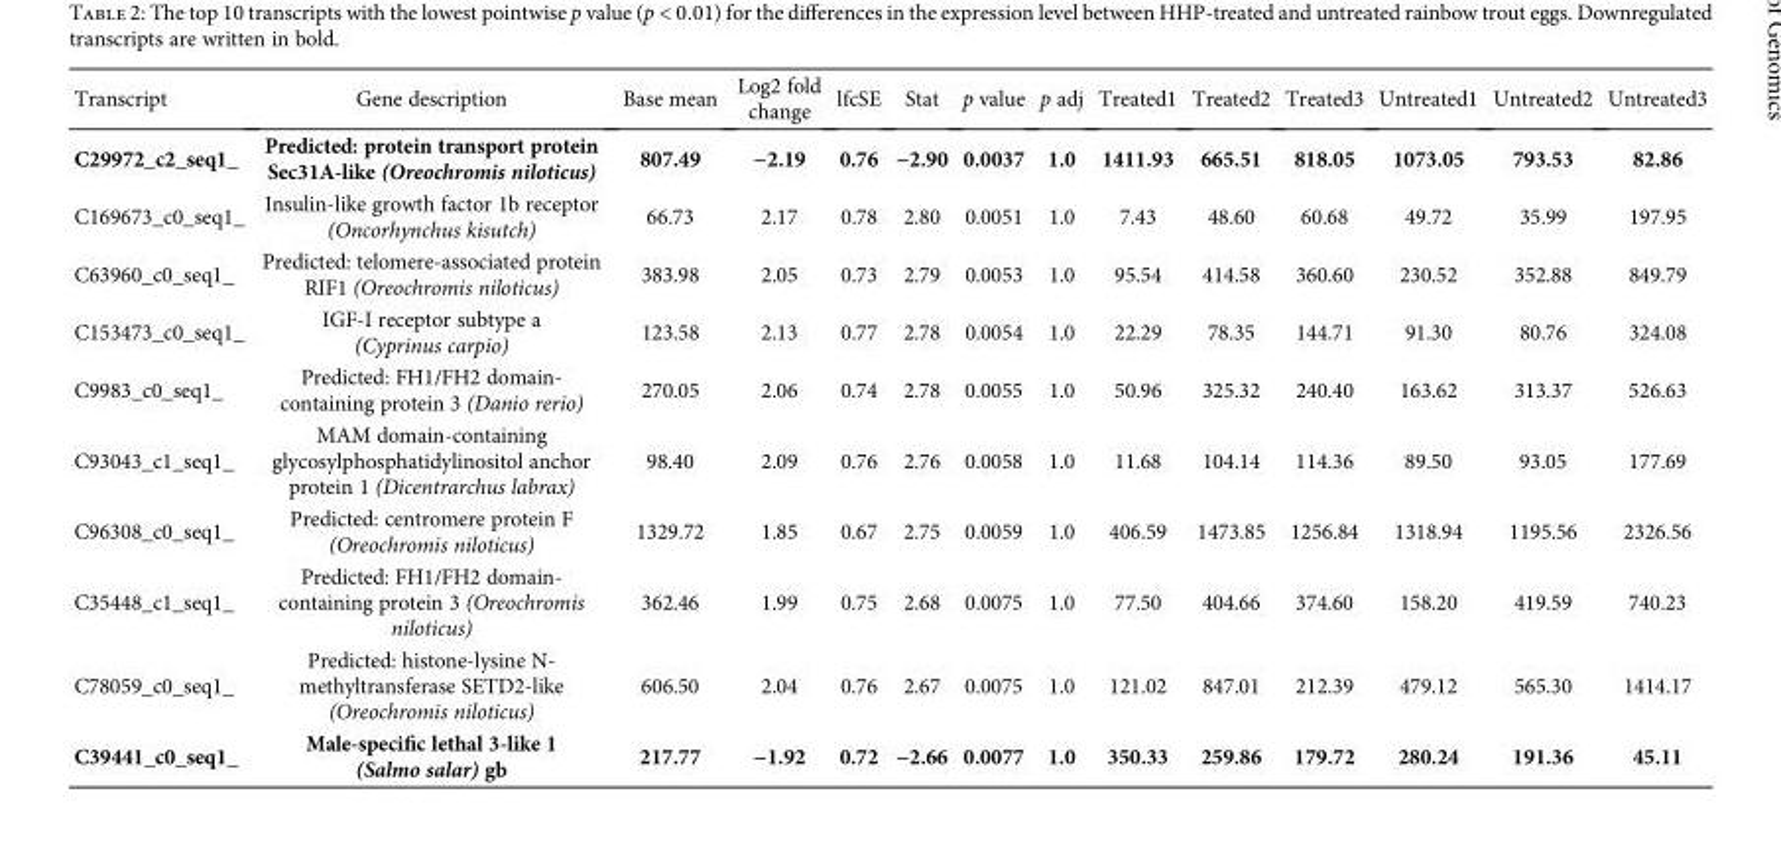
<table><thead><tr><td>Transcript</td><td>Gene description</td><td>Base mean</td><td>Log2 fold change</td><td>lfcSE</td><td>Stat</td><td>p value</td><td>p adj</td><td>Treated1</td><td>Treated2</td><td>Treated3</td><td>Untreated1</td><td>Untreated2</td><td>Untreated3</td></tr></thead><tbody><tr><td>C29972_c2_seq1_</td><td>Predicted: protein transport protein Sec31A-like (Oreochromis niloticus)</td><td>807.49</td><td>−2.19</td><td>0.76</td><td>−2.90</td><td>0.0037</td><td>1.0</td><td>1411.93</td><td>665.51</td><td>818.05</td><td>1073.05</td><td>793.53</td><td>82.86</td></tr><tr><td>C169673_c0_seq1_</td><td>Insulin-like growth factor 1b receptor (Oncorhynchus kisutch)</td><td>66.73</td><td>2.17</td><td>0.78</td><td>2.80</td><td>0.0051</td><td>1.0</td><td>7.43</td><td>48.60</td><td>60.68</td><td>49.72</td><td>35.99</td><td>197.95</td></tr><tr><td>C63960_c0_seq1_</td><td>Predicted: telomere-associated protein RIF1 (Oreochromis niloticus)</td><td>383.98</td><td>2.05</td><td>0.73</td><td>2.79</td><td>0.0053</td><td>1.0</td><td>95.54</td><td>414.58</td><td>360.60</td><td>230.52</td><td>352.88</td><td>849.79</td></tr><tr><td>C153473_c0_seq1_</td><td>IGF-I receptor subtype a (Cyprinus carpio)</td><td>123.58</td><td>2.13</td><td>0.77</td><td>2.78</td><td>0.0054</td><td>1.0</td><td>22.29</td><td>78.35</td><td>144.71</td><td>91.30</td><td>80.76</td><td>324.08</td></tr><tr><td>C9983_c0_seq1_</td><td>Predicted: FH1/FH2 domain- containing protein 3 (Danio rerio)</td><td>270.05</td><td>2.06</td><td>0.74</td><td>2.78</td><td>0.0055</td><td>1.0</td><td>50.96</td><td>325.32</td><td>240.40</td><td>163.62</td><td>313.37</td><td>526.63</td></tr><tr><td>C93043_c1_seq1_</td><td>MAM domain-containing glycosylphosphatidylinositol anchor protein 1 (Dicentrarchus labrax)</td><td>98.40</td><td>2.09</td><td>0.76</td><td>2.76</td><td>0.0058</td><td>1.0</td><td>11.68</td><td>104.14</td><td>114.36</td><td>89.50</td><td>93.05</td><td>177.69</td></tr><tr><td>C96308_c0_seq1_</td><td>Predicted: centromere protein F (Oreochromis niloticus)</td><td>1329.72</td><td>1.85</td><td>0.67</td><td>2.75</td><td>0.0059</td><td>1.0</td><td>406.59</td><td>1473.85</td><td>1256.84</td><td>1318.94</td><td>1195.56</td><td>2326.56</td></tr><tr><td>C35448_c1_seq1_</td><td>Predicted: FH1/FH2 domain- containing protein 3 (Oreochromis niloticus)</td><td>362.46</td><td>1.99</td><td>0.75</td><td>2.68</td><td>0.0075</td><td>1.0</td><td>77.50</td><td>404.66</td><td>374.60</td><td>158.20</td><td>419.59</td><td>740.23</td></tr><tr><td>C78059_c0_seq1_</td><td>Predicted: histone-lysine N- methyltransferase SETD2-like (Oreochromis niloticus)</td><td>606.50</td><td>2.04</td><td>0.76</td><td>2.67</td><td>0.0075</td><td>1.0</td><td>121.02</td><td>847.01</td><td>212.39</td><td>479.12</td><td>565.30</td><td>1414.17</td></tr><tr><td>C39441_c0_seq1_</td><td>Male-specific lethal 3-like 1 (Salmo salar) gb</td><td>217.77</td><td>−1.92</td><td>0.72</td><td>−2.66</td><td>0.0077</td><td>1.0</td><td>350.33</td><td>259.86</td><td>179.72</td><td>280.24</td><td>191.36</td><td>45.11</td></tr></tbody></table>